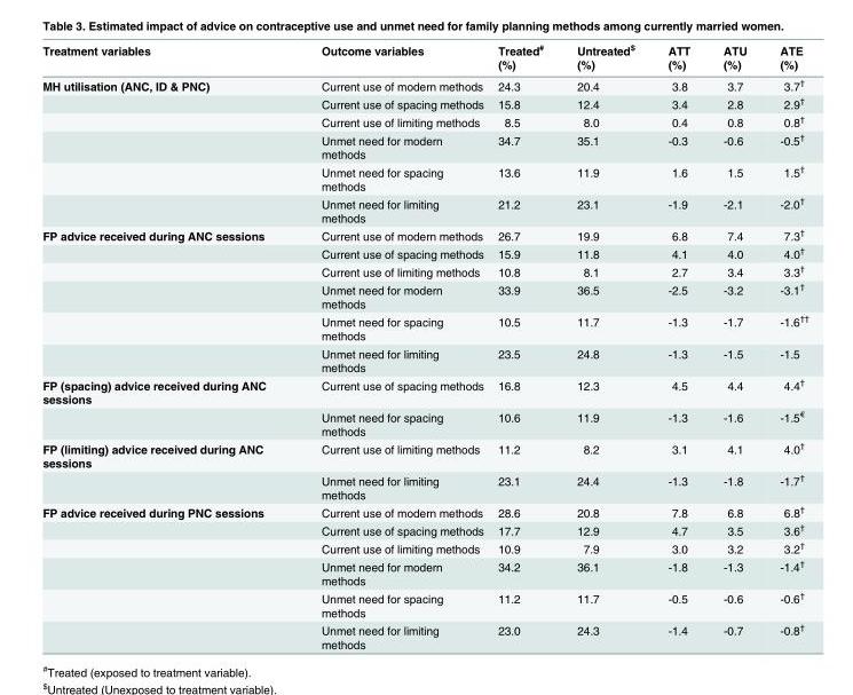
<table><thead><tr><td>Treatment variables</td><td>Outcome variables</td><td>Treated<sup>#</sup> (%)</td><td>Untreated<sup>$</sup> (%)</td><td>ATT (%)</td><td>ATU (%)</td><td>ATE (%)</td></tr></thead><tbody><tr><td rowspan="6">MH utilisation (ANC, ID &amp; PNC)</td><td>Current use of modern methods</td><td>24.3</td><td>20.4</td><td>3.8</td><td>3.7</td><td>3.7<sup>†</sup></td></tr><tr><td>Current use of spacing methods</td><td>15.8</td><td>12.4</td><td>3.4</td><td>2.8</td><td>2.9<sup>†</sup></td></tr><tr><td>Current use of limiting methods</td><td>8.5</td><td>8.0</td><td>0.4</td><td>0.8</td><td>0.8<sup>†</sup></td></tr><tr><td>Unmet need for modern methods</td><td>34.7</td><td>35.1</td><td>-0.3</td><td>-0.6</td><td>-0.5<sup>†</sup></td></tr><tr><td>Unmet need for spacing methods</td><td>13.6</td><td>11.9</td><td>1.6</td><td>1.5</td><td>1.5<sup>†</sup></td></tr><tr><td>Unmet need for limiting methods</td><td>21.2</td><td>23.1</td><td>-1.9</td><td>-2.1</td><td>-2.0<sup>†</sup></td></tr><tr><td rowspan="6">FP advice received during ANC sessions</td><td>Current use of modern methods</td><td>26.7</td><td>19.9</td><td>6.8</td><td>7.4</td><td>7.3<sup>†</sup></td></tr><tr><td>Current use of spacing methods</td><td>15.9</td><td>11.8</td><td>4.1</td><td>4.0</td><td>4.0<sup>†</sup></td></tr><tr><td>Current use of limiting methods</td><td>10.8</td><td>8.1</td><td>2.7</td><td>3.4</td><td>3.3<sup>†</sup></td></tr><tr><td>Unmet need for modern methods</td><td>33.9</td><td>36.5</td><td>-2.5</td><td>-3.2</td><td>-3.1<sup>†</sup></td></tr><tr><td>Unmet need for spacing methods</td><td>10.5</td><td>11.7</td><td>-1.3</td><td>-1.7</td><td>-1.6<sup>††</sup></td></tr><tr><td>Unmet need for limiting methods</td><td>23.5</td><td>24.8</td><td>-1.3</td><td>-1.5</td><td>-1.5</td></tr><tr><td rowspan="2">FP (spacing) advice received during ANC sessions</td><td>Current use of spacing methods</td><td>16.8</td><td>12.3</td><td>4.5</td><td>4.4</td><td>4.4<sup>†</sup></td></tr><tr><td>Unmet need for spacing methods</td><td>10.6</td><td>11.9</td><td>-1.3</td><td>-1.6</td><td>-1.5<sup>€</sup></td></tr><tr><td rowspan="2">FP (limiting) advice received during ANC sessions</td><td>Current use of limiting methods</td><td>11.2</td><td>8.2</td><td>3.1</td><td>4.1</td><td>4.0<sup>†</sup></td></tr><tr><td>Unmet need for limiting methods</td><td>23.1</td><td>24.4</td><td>-1.3</td><td>-1.8</td><td>-1.7<sup>†</sup></td></tr><tr><td rowspan="6">FP advice received during PNC sessions</td><td>Current use of modern methods</td><td>28.6</td><td>20.8</td><td>7.8</td><td>6.8</td><td>6.8<sup>†</sup></td></tr><tr><td>Current use of spacing methods</td><td>17.7</td><td>12.9</td><td>4.7</td><td>3.5</td><td>3.6<sup>†</sup></td></tr><tr><td>Current use of limiting methods</td><td>10.9</td><td>7.9</td><td>3.0</td><td>3.2</td><td>3.2<sup>†</sup></td></tr><tr><td>Unmet need for modern methods</td><td>34.2</td><td>36.1</td><td>-1.8</td><td>-1.3</td><td>-1.4<sup>†</sup></td></tr><tr><td>Unmet need for spacing methods</td><td>11.2</td><td>11.7</td><td>-0.5</td><td>-0.6</td><td>-0.6<sup>†</sup></td></tr><tr><td>Unmet need for limiting methods</td><td>23.0</td><td>24.3</td><td>-1.4</td><td>-0.7</td><td>-0.8<sup>†</sup></td></tr></tbody></table>